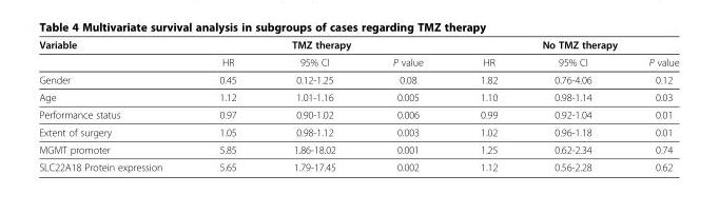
<table><thead><tr><td rowspan="2">Variable</td><td colspan="3">TMZ therapy</td><td colspan="3">No TMZ therapy</td></tr><tr><td>HR</td><td>95% CI</td><td>P value</td><td>HR</td><td>95% CI</td><td>P value</td></tr></thead><tbody><tr><td>Gender</td><td>0.45</td><td>0.12-1.25</td><td>0.08</td><td>1.82</td><td>0.76-4.06</td><td>0.12</td></tr><tr><td>Age</td><td>1.12</td><td>1.01-1.16</td><td>0.005</td><td>1.10</td><td>0.98-1.14</td><td>0.03</td></tr><tr><td>Performance status</td><td>0.97</td><td>0.90-1.02</td><td>0.006</td><td>0.99</td><td>0.92-1.04</td><td>0.01</td></tr><tr><td>Extent of surgery</td><td>1.05</td><td>0.98-1.12</td><td>0.003</td><td>1.02</td><td>0.96-1.18</td><td>0.01</td></tr><tr><td>MGMT promoter</td><td>5.85</td><td>1.86-18.02</td><td>0.001</td><td>1.25</td><td>0.62-2.34</td><td>0.74</td></tr><tr><td>SLC22A18 Protein expression</td><td>5.65</td><td>1.79-17.45</td><td>0.002</td><td>1.12</td><td>0.56-2.28</td><td>0.62</td></tr></tbody></table>